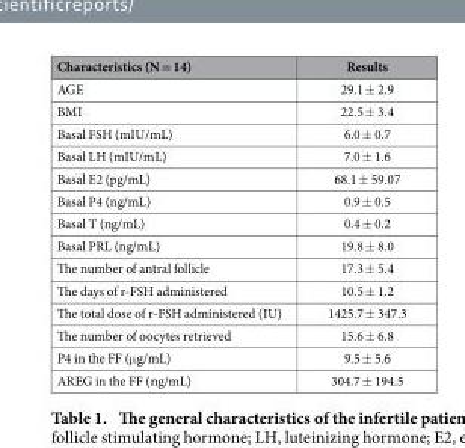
<table><thead><tr><td>Characteristics (N = 14)</td><td>Results</td></tr></thead><tbody><tr><td>AGE</td><td>29.1 ± 2.9</td></tr><tr><td>BMI</td><td>22.5 ± 3.4</td></tr><tr><td>Basal FSH (mIU/mL)</td><td>6.0 ± 0.7</td></tr><tr><td>Basal LH (mIU/mL)</td><td>7.0 ± 1.6</td></tr><tr><td>Basal E2 (pg/mL)</td><td>68.1 ± 59.07</td></tr><tr><td>Basal P4 (ng/mL)</td><td>0.9 ± 0.5</td></tr><tr><td>Basal T (ng/mL)</td><td>0.4 ± 0.2</td></tr><tr><td>Basal PRL (ng/mL)</td><td>19.8 ± 8.0</td></tr><tr><td>The number of antral follicle</td><td>17.3 ± 5.4</td></tr><tr><td>The days of r-FSH administered</td><td>10.5 ± 1.2</td></tr><tr><td>The total dose of r-FSH administered (IU)</td><td>1425.7 ± 347.3</td></tr><tr><td>The number of oocytes retrieved</td><td>15.6 ± 6.8</td></tr><tr><td>P4 in the FF (μ g/mL)</td><td>9.5 ± 5.6</td></tr><tr><td>AREG in the FF (ng/mL)</td><td>304.7 ± 194.5</td></tr></tbody></table>